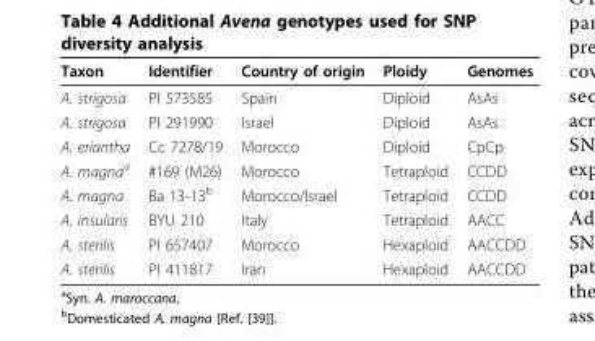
<table><thead><tr><td>Taxon</td><td>Identifier</td><td>Country of origin</td><td>Ploidy</td><td>Genomes</td></tr></thead><tbody><tr><td>A. strigosa</td><td>PI 573585</td><td>Spain</td><td>Diploid</td><td>AsAs</td></tr><tr><td>A. strigosa</td><td>PI 291990</td><td>Israel</td><td>Diploid</td><td>AsAs</td></tr><tr><td>A. eriantha</td><td>Cc 7278/19</td><td>Morocco</td><td>Diploid</td><td>CpCp</td></tr><tr><td>A. magna<sup>a</sup></td><td>#169 (M26)</td><td>Morocco</td><td>Tetraploid</td><td>CCDD</td></tr><tr><td>A. magna</td><td>Ba 13-13<sup>b</sup></td><td>Morocco/Israel</td><td>Tetraploid</td><td>CCDD</td></tr><tr><td>A. insularis</td><td>BYU 210</td><td>Italy</td><td>Tetraploid</td><td>AACC</td></tr><tr><td>A. sterilis</td><td>PI 657407</td><td>Morocco</td><td>Hexaploid</td><td>AACCDD</td></tr><tr><td>A. sterilis</td><td>PI 411817</td><td>Iran</td><td>Hexaploid</td><td>AACCDD</td></tr></tbody></table>